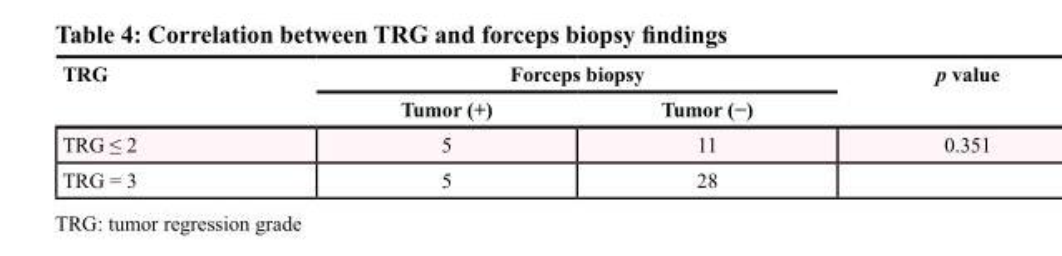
<table><thead><tr><td rowspan="2">TRG</td><td colspan="2">Forceps biopsy</td><td rowspan="2">p value</td></tr><tr><td>Tumor (+)</td><td>Tumor (−)</td></tr></thead><tbody><tr><td>TRG ≤ 2</td><td>5</td><td>11</td><td>0.351</td></tr><tr><td>TRG = 3</td><td>5</td><td>28</td><td></td></tr></tbody></table>